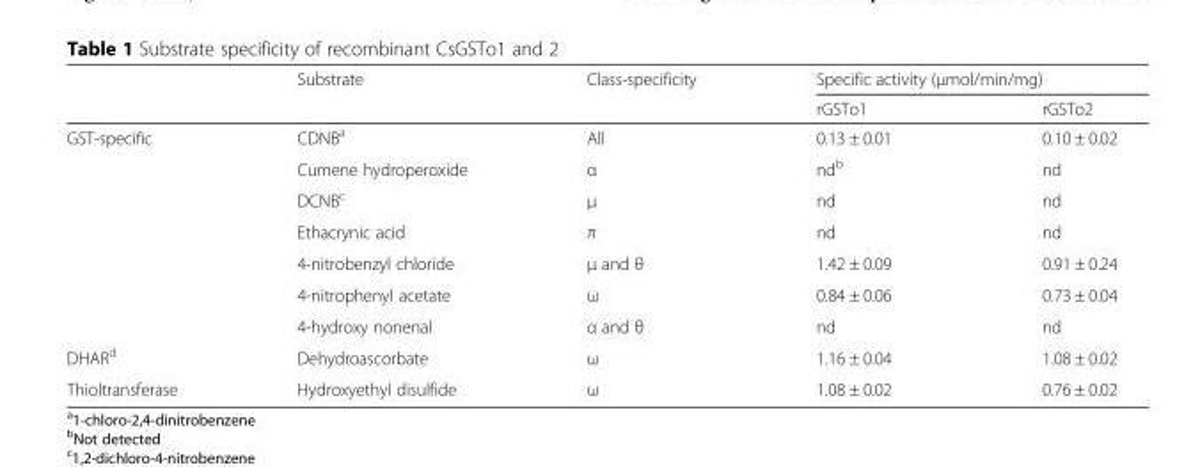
<table><thead><tr><td rowspan="2"></td><td rowspan="2">Substrate</td><td rowspan="2">Class-specificity</td><td colspan="2">Specific activity (μmol/min/mg)</td></tr><tr><td>rGSTo1</td><td>rGSTo2</td></tr></thead><tbody><tr><td rowspan="7">GST-specific</td><td>CDNB<sup>a</sup></td><td>All</td><td>0.13 ± 0.01</td><td>0.10 ± 0.02</td></tr><tr><td>Cumene hydroperoxide</td><td>α</td><td>nd<sup>b</sup></td><td>nd</td></tr><tr><td>DCNB<sup>c</sup></td><td>μ</td><td>nd</td><td>nd</td></tr><tr><td>Ethacrynic acid</td><td>π</td><td>nd</td><td>nd</td></tr><tr><td>4-nitrobenzyl chloride</td><td>μ and θ</td><td>1.42 ± 0.09</td><td>0.91 ± 0.24</td></tr><tr><td>4-nitrophenyl acetate</td><td>ω</td><td>0.84 ± 0.06</td><td>0.73 ± 0.04</td></tr><tr><td>4-hydroxy nonenal</td><td>α and θ</td><td>nd</td><td>nd</td></tr><tr><td>DHAR<sup>d</sup></td><td>Dehydroascorbate</td><td>ω</td><td>1.16 ± 0.04</td><td>1.08 ± 0.02</td></tr><tr><td>Thioltransferase</td><td>Hydroxyethyl disulfide</td><td>ω</td><td>1.08 ± 0.02</td><td>0.76 ± 0.02</td></tr></tbody></table>